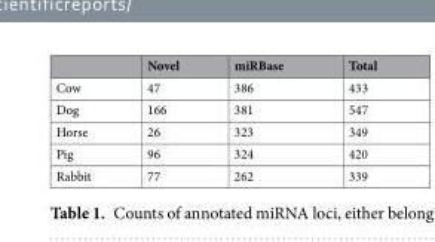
<table><thead><tr><td></td><td>Novel</td><td>miRBase</td><td>Total</td></tr></thead><tbody><tr><td>Cow</td><td>47</td><td>386</td><td>433</td></tr><tr><td>Dog</td><td>166</td><td>381</td><td>547</td></tr><tr><td>Horse</td><td>26</td><td>323</td><td>349</td></tr><tr><td>Pig</td><td>96</td><td>324</td><td>420</td></tr><tr><td>Rabbit</td><td>77</td><td>262</td><td>339</td></tr></tbody></table>